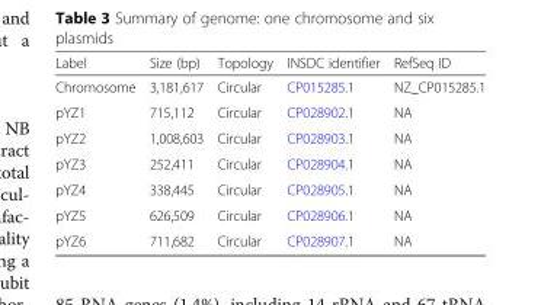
<table><thead><tr><td>Label</td><td>Size (bp)</td><td>Topology</td><td>INSDC identifier</td><td>RefSeq ID</td></tr></thead><tbody><tr><td>Chromosome</td><td>3,181,617</td><td>Circular</td><td>CP015285.1</td><td>NZ_CP015285.1</td></tr><tr><td>pYZ1</td><td>715,112</td><td>Circular</td><td>CP028902.1</td><td>NA</td></tr><tr><td>pYZ2</td><td>1,008,603</td><td>Circular</td><td>CP028903.1</td><td>NA</td></tr><tr><td>pYZ3</td><td>252,411</td><td>Circular</td><td>CP028904.1</td><td>NA</td></tr><tr><td>pYZ4</td><td>338,445</td><td>Circular</td><td>CP028905.1</td><td>NA</td></tr><tr><td>pYZ5</td><td>626,509</td><td>Circular</td><td>CP028906.1</td><td>NA</td></tr><tr><td>pYZ6</td><td>711,682</td><td>Circular</td><td>CP028907.1</td><td>NA</td></tr></tbody></table>